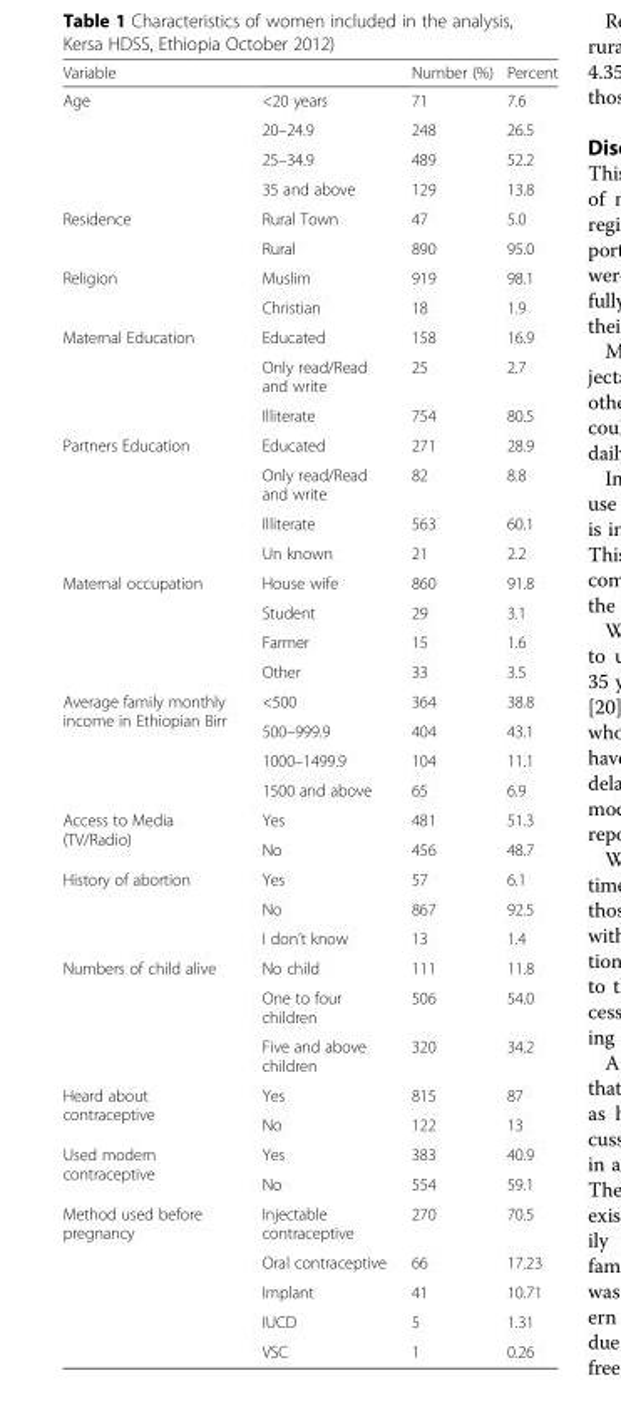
<table><thead><tr><td>Variable</td><td></td><td>Number (%)</td><td>Percent</td></tr></thead><tbody><tr><td rowspan="4">Age</td><td>&lt;20 years</td><td>71</td><td>7.6</td></tr><tr><td>20–24.9</td><td>248</td><td>26.5</td></tr><tr><td>25–34.9</td><td>489</td><td>52.2</td></tr><tr><td>35 and above</td><td>129</td><td>13.8</td></tr><tr><td rowspan="2">Residence</td><td>Rural Town</td><td>47</td><td>5.0</td></tr><tr><td>Rural</td><td>890</td><td>95.0</td></tr><tr><td rowspan="2">Religion</td><td>Muslim</td><td>919</td><td>98.1</td></tr><tr><td>Christian</td><td>18</td><td>1.9</td></tr><tr><td rowspan="3">Maternal Education</td><td>Educated</td><td>158</td><td>16.9</td></tr><tr><td>Only read/Read and write</td><td>25</td><td>2.7</td></tr><tr><td>Illiterate</td><td>754</td><td>80.5</td></tr><tr><td rowspan="4">Partners Education</td><td>Educated</td><td>271</td><td>28.9</td></tr><tr><td>Only read/Read and write</td><td>82</td><td>8.8</td></tr><tr><td>Illiterate</td><td>563</td><td>60.1</td></tr><tr><td>Un known</td><td>21</td><td>2.2</td></tr><tr><td rowspan="4">Maternal occupation</td><td>House wife</td><td>860</td><td>91.8</td></tr><tr><td>Student</td><td>29</td><td>3.1</td></tr><tr><td>Farmer</td><td>15</td><td>1.6</td></tr><tr><td>Other</td><td>33</td><td>3.5</td></tr><tr><td rowspan="4">Average family monthly income in Ethiopian Birr</td><td>&lt;500</td><td>364</td><td>38.8</td></tr><tr><td>500–999.9</td><td>404</td><td>43.1</td></tr><tr><td>1000–1499.9</td><td>104</td><td>11.1</td></tr><tr><td>1500 and above</td><td>65</td><td>6.9</td></tr><tr><td rowspan="2">Access to Media (TV/Radio)</td><td>Yes</td><td>481</td><td>51.3</td></tr><tr><td>No</td><td>456</td><td>48.7</td></tr><tr><td rowspan="3">History of abortion</td><td>Yes</td><td>57</td><td>6.1</td></tr><tr><td>No</td><td>867</td><td>92.5</td></tr><tr><td>I don’t know</td><td>13</td><td>1.4</td></tr><tr><td rowspan="3">Numbers of child alive</td><td>No child</td><td>111</td><td>11.8</td></tr><tr><td>One to four children</td><td>506</td><td>54.0</td></tr><tr><td>Five and above children</td><td>320</td><td>34.2</td></tr><tr><td rowspan="2">Heard about contraceptive</td><td>Yes</td><td>815</td><td>87</td></tr><tr><td>No</td><td>122</td><td>13</td></tr><tr><td rowspan="2">Used modern contraceptive</td><td>Yes</td><td>383</td><td>40.9</td></tr><tr><td>No</td><td>554</td><td>59.1</td></tr><tr><td rowspan="5">Method used before pregnancy</td><td>Injectable contraceptive</td><td>270</td><td>70.5</td></tr><tr><td>Oral contraceptive</td><td>66</td><td>17.23</td></tr><tr><td>Implant</td><td>41</td><td>10.71</td></tr><tr><td>IUCD</td><td>5</td><td>1.31</td></tr><tr><td>VSC</td><td>1</td><td>0.26</td></tr></tbody></table>